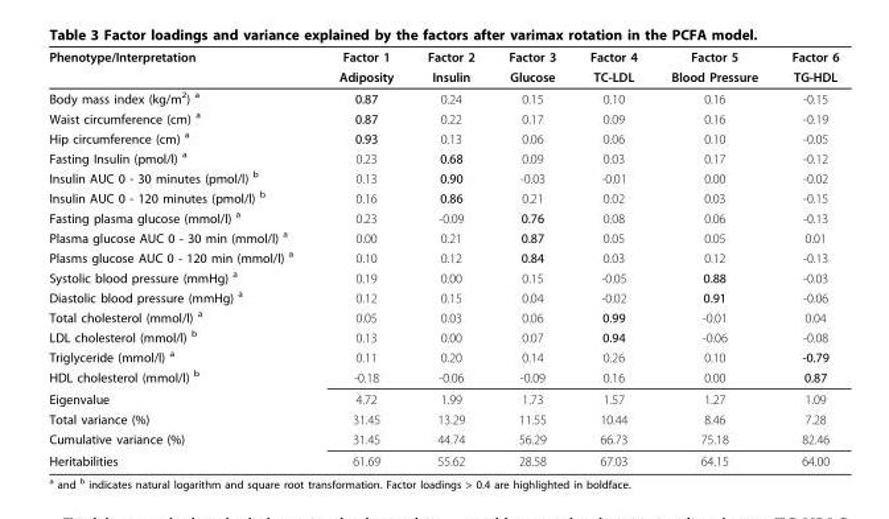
<table><thead><tr><td rowspan="2">Phenotype/Interpretation</td><td rowspan="2">Factor 1 Adiposity</td><td rowspan="2">Factor 2 Insulin</td><td rowspan="2">Factor 3 Glucose</td><td rowspan="2">Factor 4 TC-LDL</td><td rowspan="2">Factor 5 Blood Pressure</td><td rowspan="2">Factor 6 TG-HDL</td></tr><tr></tr></thead><tbody><tr><td>Body mass index (kg/m<sup>2</sup>) <sup>a</sup></td><td>0.87</td><td>0.24</td><td>0.15</td><td>0.10</td><td>0.16</td><td>-0.15</td></tr><tr><td>Waist circumference (cm) <sup>a</sup></td><td>0.87</td><td>0.22</td><td>0.17</td><td>0.09</td><td>0.16</td><td>-0.19</td></tr><tr><td>Hip circumference (cm) <sup>a</sup></td><td>0.93</td><td>0.13</td><td>0.06</td><td>0.06</td><td>0.10</td><td>-0.05</td></tr><tr><td>Fasting Insulin (pmol/l) <sup>a</sup></td><td>0.23</td><td>0.68</td><td>0.09</td><td>0.03</td><td>0.17</td><td>-0.12</td></tr><tr><td>Insulin AUC 0 - 30 minutes (pmol/l) <sup>b</sup></td><td>0.13</td><td>0.90</td><td>-0.03</td><td>-0.01</td><td>0.00</td><td>-0.02</td></tr><tr><td>Insulin AUC 0 - 120 minutes (pmol/l) <sup>b</sup></td><td>0.16</td><td>0.86</td><td>0.21</td><td>0.02</td><td>0.03</td><td>-0.15</td></tr><tr><td>Fasting plasma glucose (mmol/l) <sup>a</sup></td><td>0.23</td><td>-0.09</td><td>0.76</td><td>0.08</td><td>0.06</td><td>-0.13</td></tr><tr><td>Plasma glucose AUC 0 - 30 min (mmol/l) <sup>a</sup></td><td>0.00</td><td>0.21</td><td>0.87</td><td>0.05</td><td>0.05</td><td>0.01</td></tr><tr><td>Plasms glucose AUC 0 - 120 min (mmol/l) <sup>a</sup></td><td>0.10</td><td>0.12</td><td>0.84</td><td>0.03</td><td>0.12</td><td>-0.13</td></tr><tr><td>Systolic blood pressure (mmHg) <sup>a</sup></td><td>0.19</td><td>0.00</td><td>0.15</td><td>-0.05</td><td>0.88</td><td>-0.03</td></tr><tr><td>Diastolic blood pressure (mmHg) <sup>a</sup></td><td>0.12</td><td>0.15</td><td>0.04</td><td>-0.02</td><td>0.91</td><td>-0.06</td></tr><tr><td>Total cholesterol (mmol/l) <sup>a</sup></td><td>0.05</td><td>0.03</td><td>0.06</td><td>0.99</td><td>-0.01</td><td>0.04</td></tr><tr><td>LDL cholesterol (mmol/l) <sup>b</sup></td><td>0.13</td><td>0.00</td><td>0.07</td><td>0.94</td><td>-0.06</td><td>-0.08</td></tr><tr><td>Triglyceride (mmol/l) <sup>a</sup></td><td>0.11</td><td>0.20</td><td>0.14</td><td>0.26</td><td>0.10</td><td>-0.79</td></tr><tr><td>HDL cholesterol (mmol/l) <sup>b</sup></td><td>-0.18</td><td>-0.06</td><td>-0.09</td><td>0.16</td><td>0.00</td><td>0.87</td></tr><tr><td>Eigenvalue</td><td>4.72</td><td>1.99</td><td>1.73</td><td>1.57</td><td>1.27</td><td>1.09</td></tr><tr><td>Total variance (%)</td><td>31.45</td><td>13.29</td><td>11.55</td><td>10.44</td><td>8.46</td><td>7.28</td></tr><tr><td>Cumulative variance (%)</td><td>31.45</td><td>44.74</td><td>56.29</td><td>66.73</td><td>75.18</td><td>82.46</td></tr><tr><td>Heritabilities</td><td>61.69</td><td>55.62</td><td>28.58</td><td>67.03</td><td>64.15</td><td>64.00</td></tr></tbody></table>